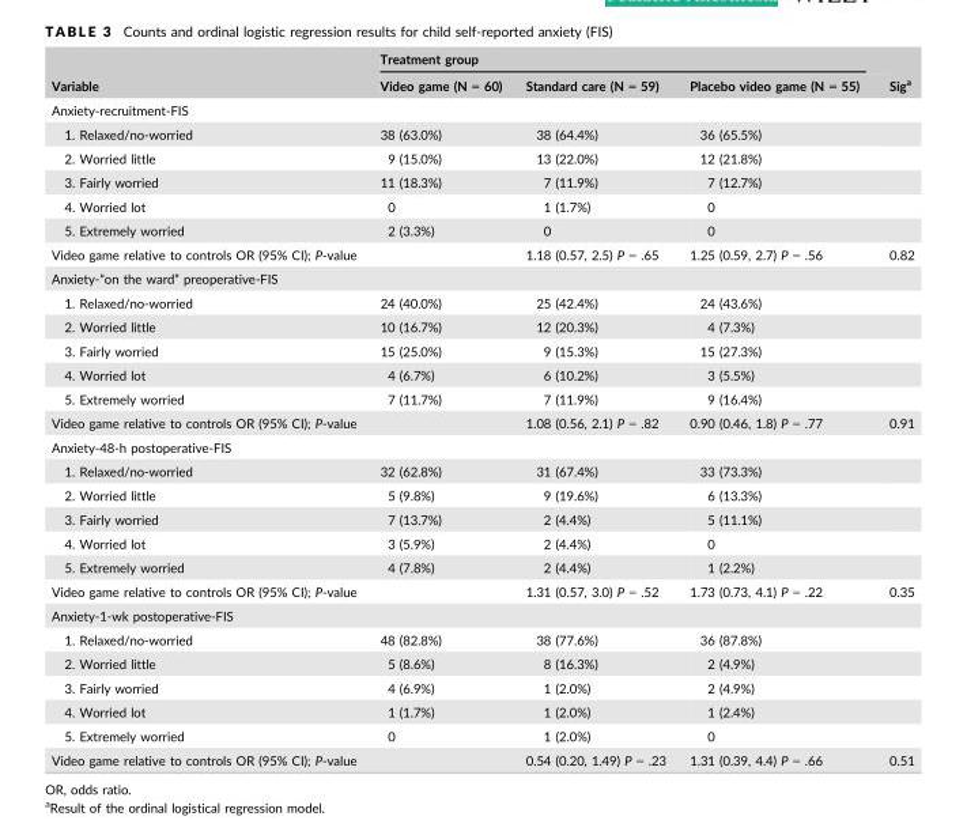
<table><thead><tr><td rowspan="2">Variable</td><td colspan="3">Treatment group</td><td rowspan="2">Sig<sup>a</sup></td></tr><tr><td>Video game (N = 60)</td><td>Standard care (N = 59)</td><td>Placebo video game (N = 55)</td></tr></thead><tbody><tr><td colspan="5">Anxiety-recruitment-FIS</td></tr><tr><td>1. Relaxed/no-worried</td><td>38 (63.0%)</td><td>38 (64.4%)</td><td>36 (65.5%)</td><td></td></tr><tr><td>2. Worried little</td><td>9 (15.0%)</td><td>13 (22.0%)</td><td>12 (21.8%)</td><td></td></tr><tr><td>3. Fairly worried</td><td>11 (18.3%)</td><td>7 (11.9%)</td><td>7 (12.7%)</td><td></td></tr><tr><td>4. Worried lot</td><td>0</td><td>1 (1.7%)</td><td>0</td><td></td></tr><tr><td>5. Extremely worried</td><td>2 (3.3%)</td><td>0</td><td>0</td><td></td></tr><tr><td>Video game relative to controls OR (95% CI); P-value</td><td></td><td>1.18 (0.57, 2.5) P = .65</td><td>1.25 (0.59, 2.7) P = .56</td><td>0.82</td></tr><tr><td colspan="5">Anxiety-“on the ward” preoperative-FIS</td></tr><tr><td>1. Relaxed/no-worried</td><td>24 (40.0%)</td><td>25 (42.4%)</td><td>24 (43.6%)</td><td></td></tr><tr><td>2. Worried little</td><td>10 (16.7%)</td><td>12 (20.3%)</td><td>4 (7.3%)</td><td></td></tr><tr><td>3. Fairly worried</td><td>15 (25.0%)</td><td>9 (15.3%)</td><td>15 (27.3%)</td><td></td></tr><tr><td>4. Worried lot</td><td>4 (6.7%)</td><td>6 (10.2%)</td><td>3 (5.5%)</td><td></td></tr><tr><td>5. Extremely worried</td><td>7 (11.7%)</td><td>7 (11.9%)</td><td>9 (16.4%)</td><td></td></tr><tr><td>Video game relative to controls OR (95% CI); P-value</td><td></td><td>1.08 (0.56, 2.1) P = .82</td><td>0.90 (0.46, 1.8) P = .77</td><td>0.91</td></tr><tr><td colspan="5">Anxiety-48-h postoperative-FIS</td></tr><tr><td>1. Relaxed/no-worried</td><td>32 (62.8%)</td><td>31 (67.4%)</td><td>33 (73.3%)</td><td></td></tr><tr><td>2. Worried little</td><td>5 (9.8%)</td><td>9 (19.6%)</td><td>6 (13.3%)</td><td></td></tr><tr><td>3. Fairly worried</td><td>7 (13.7%)</td><td>2 (4.4%)</td><td>5 (11.1%)</td><td></td></tr><tr><td>4. Worried lot</td><td>3 (5.9%)</td><td>2 (4.4%)</td><td>0</td><td></td></tr><tr><td>5. Extremely worried</td><td>4 (7.8%)</td><td>2 (4.4%)</td><td>1 (2.2%)</td><td></td></tr><tr><td>Video game relative to controls OR (95% CI); P-value</td><td></td><td>1.31 (0.57, 3.0) P = .52</td><td>1.73 (0.73, 4.1) P = .22</td><td>0.35</td></tr><tr><td colspan="5">Anxiety-1-wk postoperative-FIS</td></tr><tr><td>1. Relaxed/no-worried</td><td>48 (82.8%)</td><td>38 (77.6%)</td><td>36 (87.8%)</td><td></td></tr><tr><td>2. Worried little</td><td>5 (8.6%)</td><td>8 (16.3%)</td><td>2 (4.9%)</td><td></td></tr><tr><td>3. Fairly worried</td><td>4 (6.9%)</td><td>1 (2.0%)</td><td>2 (4.9%)</td><td></td></tr><tr><td>4. Worried lot</td><td>1 (1.7%)</td><td>1 (2.0%)</td><td>1 (2.4%)</td><td></td></tr><tr><td>5. Extremely worried</td><td>0</td><td>1 (2.0%)</td><td>0</td><td></td></tr><tr><td>Video game relative to controls OR (95% CI); P-value</td><td></td><td>0.54 (0.20, 1.49) P = .23</td><td>1.31 (0.39, 4.4) P = .66</td><td>0.51</td></tr></tbody></table>